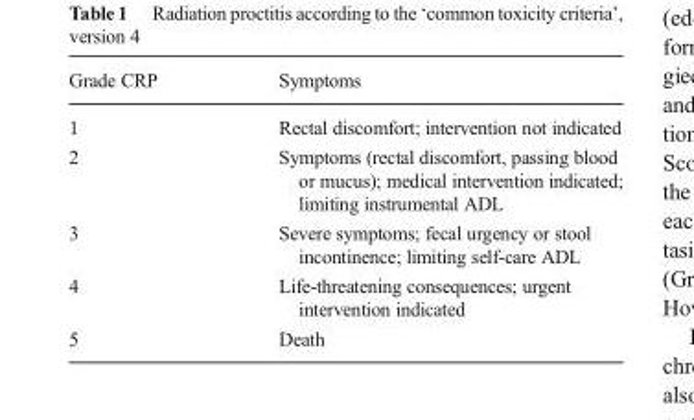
<table><thead><tr><td>Grade CRP</td><td>Symptoms</td></tr></thead><tbody><tr><td>1</td><td>Rectal discomfort; intervention not indicated</td></tr><tr><td>2</td><td>Symptoms (rectal discomfort, passing blood or mucus); medical intervention indicated; limiting instrumental ADL</td></tr><tr><td>3</td><td>Severe symptoms; fecal urgency or stool incontinence; limiting self-care ADL</td></tr><tr><td>4</td><td>Life-threatening consequences; urgent intervention indicated</td></tr><tr><td>5</td><td>Death</td></tr></tbody></table>